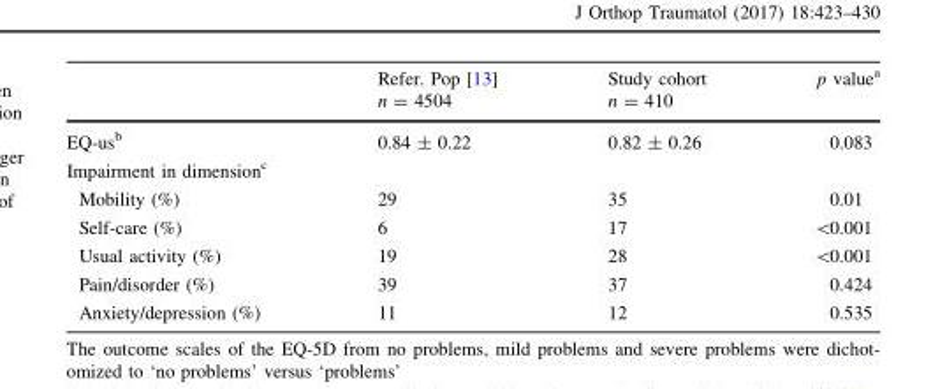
<table><thead><tr><td rowspan="2"></td><td rowspan="2">Refer. Pop [13] n = 4504</td><td rowspan="2">Study cohort n = 410</td><td rowspan="2">p value<sup>a</sup></td></tr><tr></tr></thead><tbody><tr><td>EQ-us<sup>b</sup></td><td>0.84 ± 0.22</td><td>0.82 ± 0.26</td><td>0.083</td></tr><tr><td colspan="4">Impairment in dimension<sup>c</sup></td></tr><tr><td>Mobility (%)</td><td>29</td><td>35</td><td>0.01</td></tr><tr><td>Self-care (%)</td><td>6</td><td>17</td><td>&lt;0.001</td></tr><tr><td>Usual activity (%)</td><td>19</td><td>28</td><td>&lt;0.001</td></tr><tr><td>Pain/disorder (%)</td><td>39</td><td>37</td><td>0.424</td></tr><tr><td>Anxiety/depression (%)</td><td>11</td><td>12</td><td>0.535</td></tr></tbody></table>